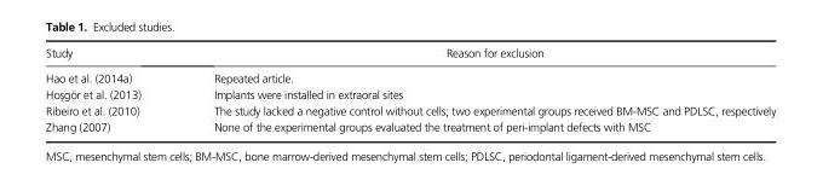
<table><thead><tr><td>Study</td><td>Reason for exclusion</td></tr></thead><tbody><tr><td>Hao et al. (2014a)</td><td>Repeated article.</td></tr><tr><td>Hoşgör et al. (2013)</td><td>Implants were installed in extraoral sites</td></tr><tr><td>Ribeiro et al. (2010)</td><td>The study lacked a negative control without cells; two experimental groups received BM-MSC and PDLSC, respectively</td></tr><tr><td>Zhang (2007)</td><td>None of the experimental groups evaluated the treatment of peri-implant defects with MSC</td></tr></tbody></table>